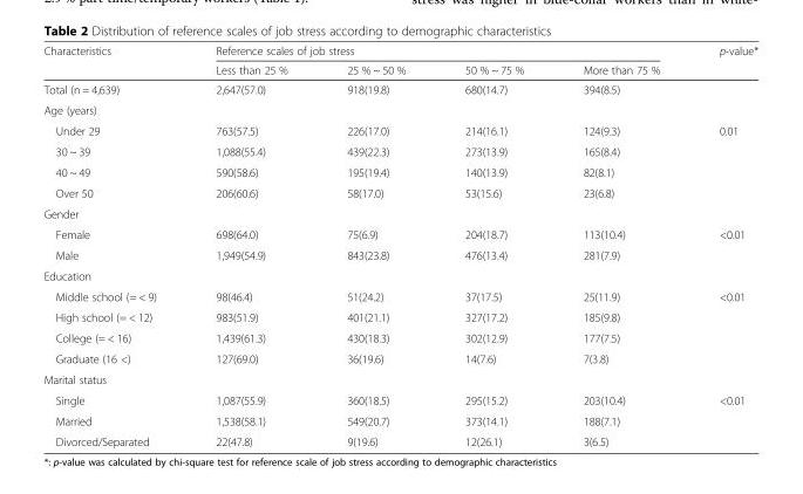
<table><thead><tr><td rowspan="2">Characteristics</td><td colspan="4">Reference scales of job stress</td><td rowspan="2">p-value*</td></tr><tr><td>Less than 25 %</td><td>25 % ~ 50 %</td><td>50 % ~ 75 %</td><td>More than 75 %</td></tr></thead><tbody><tr><td>Total (n = 4,639)</td><td>2,647(57.0)</td><td>918(19.8)</td><td>680(14.7)</td><td>394(8.5)</td><td></td></tr><tr><td colspan="6">Age (years)</td></tr><tr><td>Under 29</td><td>763(57.5)</td><td>226(17.0)</td><td>214(16.1)</td><td>124(9.3)</td><td rowspan="4">0.01</td></tr><tr><td>30 ~ 39</td><td>1,088(55.4)</td><td>439(22.3)</td><td>273(13.9)</td><td>165(8.4)</td></tr><tr><td>40 ~ 49</td><td>590(58.6)</td><td>195(19.4)</td><td>140(13.9)</td><td>82(8.1)</td></tr><tr><td>Over 50</td><td>206(60.6)</td><td>58(17.0)</td><td>53(15.6)</td><td>23(6.8)</td></tr><tr><td colspan="6">Gender</td></tr><tr><td>Female</td><td>698(64.0)</td><td>75(6.9)</td><td>204(18.7)</td><td>113(10.4)</td><td rowspan="2">&lt;0.01</td></tr><tr><td>Male</td><td>1,949(54.9)</td><td>843(23.8)</td><td>476(13.4)</td><td>281(7.9)</td></tr><tr><td colspan="6">Education</td></tr><tr><td>Middle school (= &lt; 9)</td><td>98(46.4)</td><td>51(24.2)</td><td>37(17.5)</td><td>25(11.9)</td><td rowspan="4">&lt;0.01</td></tr><tr><td>High school (= &lt; 12)</td><td>983(51.9)</td><td>401(21.1)</td><td>327(17.2)</td><td>185(9.8)</td></tr><tr><td>College (= &lt; 16)</td><td>1,439(61.3)</td><td>430(18.3)</td><td>302(12.9)</td><td>177(7.5)</td></tr><tr><td>Graduate (16 &lt;)</td><td>127(69.0)</td><td>36(19.6)</td><td>14(7.6)</td><td>7(3.8)</td></tr><tr><td colspan="6">Marital status</td></tr><tr><td>Single</td><td>1,087(55.9)</td><td>360(18.5)</td><td>295(15.2)</td><td>203(10.4)</td><td rowspan="3">&lt;0.01</td></tr><tr><td>Married</td><td>1,538(58.1)</td><td>549(20.7)</td><td>373(14.1)</td><td>188(7.1)</td></tr><tr><td>Divorced/Separated</td><td>22(47.8)</td><td>9(19.6)</td><td>12(26.1)</td><td>3(6.5)</td></tr></tbody></table>